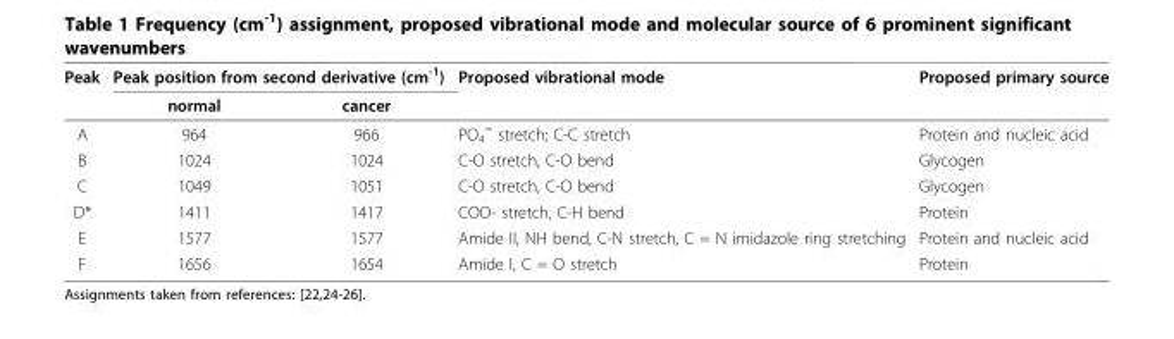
<table><thead><tr><td rowspan="2">Peak</td><td colspan="2">Peak position from second derivative (cm<sup>-1</sup>)</td><td rowspan="2">Proposed vibrational mode</td><td rowspan="2">Proposed primary source</td></tr><tr><td>normal</td><td>cancer</td></tr></thead><tbody><tr><td>A</td><td>964</td><td>966</td><td>PO<sub>4</sub> <sup>=</sup> stretch; C-C stretch</td><td>Protein and nucleic acid</td></tr><tr><td>B</td><td>1024</td><td>1024</td><td>C-O stretch, C-O bend</td><td>Glycogen</td></tr><tr><td>C</td><td>1049</td><td>1051</td><td>C-O stretch, C-O bend</td><td>Glycogen</td></tr><tr><td>D*</td><td>1411</td><td>1417</td><td>COO- stretch, C-H bend</td><td>Protein</td></tr><tr><td>E</td><td>1577</td><td>1577</td><td>Amide II, NH bend, C-N stretch, C = N imidazole ring stretching</td><td>Protein and nucleic acid</td></tr><tr><td>F</td><td>1656</td><td>1654</td><td>Amide I, C = O stretch</td><td>Protein</td></tr></tbody></table>